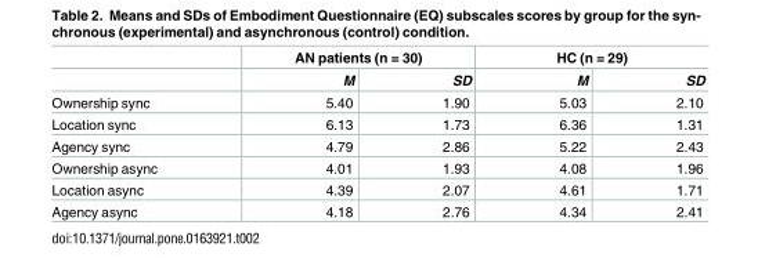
<table><thead><tr><td rowspan="2"></td><td colspan="2">AN patients (n = 30)</td><td colspan="2">HC (n = 29)</td></tr><tr><td>M</td><td>SD</td><td>M</td><td>SD</td></tr></thead><tbody><tr><td>Ownership sync</td><td>5.40</td><td>1.90</td><td>5.03</td><td>2.10</td></tr><tr><td>Location sync</td><td>6.13</td><td>1.73</td><td>6.36</td><td>1.31</td></tr><tr><td>Agency sync</td><td>4.79</td><td>2.86</td><td>5.22</td><td>2.43</td></tr><tr><td>Ownership async</td><td>4.01</td><td>1.93</td><td>4.08</td><td>1.96</td></tr><tr><td>Location async</td><td>4.39</td><td>2.07</td><td>4.61</td><td>1.71</td></tr><tr><td>Agency async</td><td>4.18</td><td>2.76</td><td>4.34</td><td>2.41</td></tr></tbody></table>